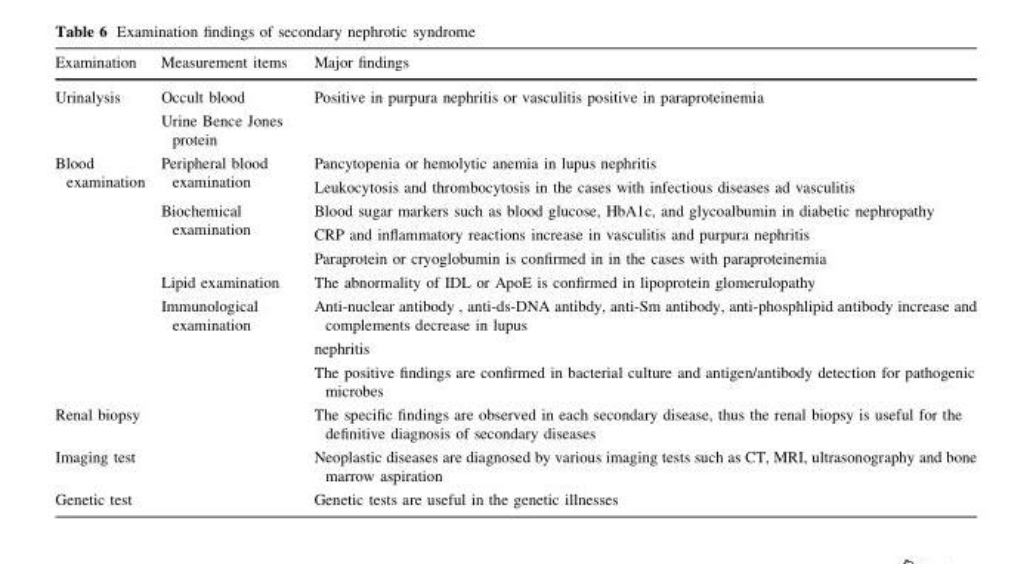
<table><thead><tr><td>Examination</td><td>Measurement items</td><td>Major findings</td></tr></thead><tbody><tr><td>Urinalysis</td><td>Occult blood Urine Bence Jones protein</td><td>Positive in purpura nephritis or vasculitis positive in paraproteinemia</td></tr><tr><td rowspan="4">Blood examination</td><td>Peripheral blood examination</td><td>Pancytopenia or hemolytic anemia in lupus nephritis Leukocytosis and thrombocytosis in the cases with infectious diseases ad vasculitis</td></tr><tr><td>Biochemical examination</td><td>Blood sugar markers such as blood glucose, HbA1c, and glycoalbumin in diabetic nephropathy CRP and inflammatory reactions increase in vasculitis and purpura nephritis Paraprotein or cryoglobumin is confirmed in in the cases with paraproteinemia</td></tr><tr><td>Lipid examination</td><td>The abnormality of IDL or ApoE is confirmed in lipoprotein glomerulopathy</td></tr><tr><td>Immunological examination</td><td>Anti-nuclear antibody , anti-ds-DNA antibdy, anti-Sm antibody, anti-phosphlipid antibody increase and complements decrease in lupus nephritis The positive findings are confirmed in bacterial culture and antigen/antibody detection for pathogenic microbes</td></tr><tr><td>Renal biopsy</td><td></td><td>The specific findings are observed in each secondary disease, thus the renal biopsy is useful for the definitive diagnosis of secondary diseases</td></tr><tr><td>Imaging test</td><td></td><td>Neoplastic diseases are diagnosed by various imaging tests such as CT, MRI, ultrasonography and bone marrow aspiration</td></tr><tr><td>Genetic test</td><td></td><td>Genetic tests are useful in the genetic illnesses</td></tr></tbody></table>